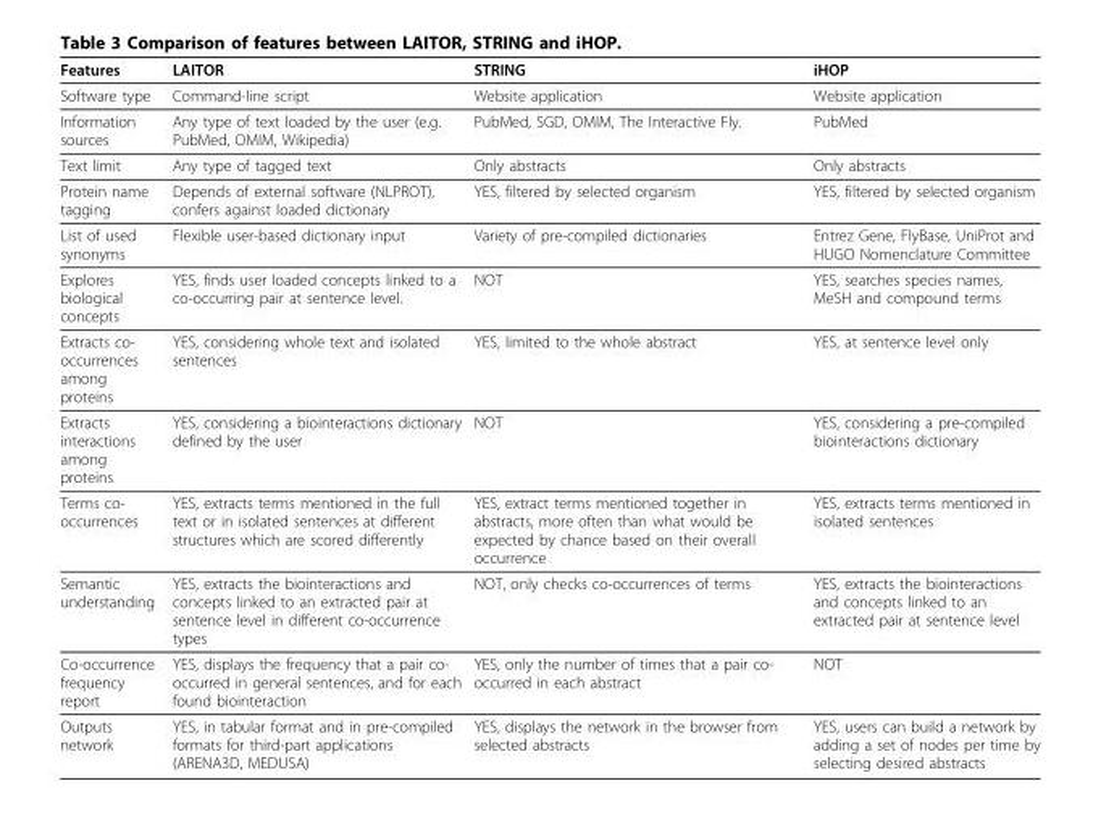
<table><thead><tr><td>Features</td><td>LAITOR</td><td>STRING</td><td>iHOP</td></tr></thead><tbody><tr><td>Software type</td><td>Command-line script</td><td>Website application</td><td>Website application</td></tr><tr><td>Information sources</td><td>Any type of text loaded by the user (e.g. PubMed, OMIM, Wikipedia)</td><td>PubMed, SGD, OMIM, The Interactive Fly.</td><td>PubMed</td></tr><tr><td>Text limit</td><td>Any type of tagged text</td><td>Only abstracts</td><td>Only abstracts</td></tr><tr><td>Protein name tagging</td><td>Depends of external software (NLPROT), confers against loaded dictionary</td><td>YES, filtered by selected organism</td><td>YES, filtered by selected organism</td></tr><tr><td>List of used synonyms</td><td>Flexible user-based dictionary input</td><td>Variety of pre-compiled dictionaries</td><td>Entrez Gene, FlyBase, UniProt and HUGO Nomenclature Committee</td></tr><tr><td>Explores biological concepts</td><td>YES, finds user loaded concepts linked to a co-occurring pair at sentence level.</td><td>NOT</td><td>YES, searches species names, MeSH and compound terms</td></tr><tr><td>Extracts co- occurrences among proteins</td><td>YES, considering whole text and isolated sentences</td><td>YES, limited to the whole abstract</td><td>YES, at sentence level only</td></tr><tr><td>Extracts interactions among proteins</td><td>YES, considering a biointeractions dictionary defined by the user</td><td>NOT</td><td>YES, considering a pre-compiled biointeractions dictionary</td></tr><tr><td>Terms co- occurrences</td><td>YES, extracts terms mentioned in the full text or in isolated sentences at different structures which are scored differently</td><td>YES, extract terms mentioned together in abstracts, more often than what would be expected by chance based on their overall occurrence</td><td>YES, extracts terms mentioned in isolated sentences</td></tr><tr><td>Semantic understanding</td><td>YES, extracts the biointeractions and concepts linked to an extracted pair at sentence level in different co-occurrence types</td><td>NOT, only checks co-occurrences of terms</td><td>YES, extracts the biointeractions and concepts linked to an extracted pair at sentence level</td></tr><tr><td>Co-occurrence frequency report</td><td>YES, displays the frequency that a pair co- occurred in general sentences, and for each found biointeraction</td><td>YES, only the number of times that a pair co- occurred in each abstract</td><td>NOT</td></tr><tr><td>Outputs network</td><td>YES, in tabular format and in pre-compiled formats for third-part applications (ARENA3D, MEDUSA)</td><td>YES, displays the network in the browser from selected abstracts</td><td>YES, users can build a network by adding a set of nodes per time by selecting desired abstracts</td></tr></tbody></table>